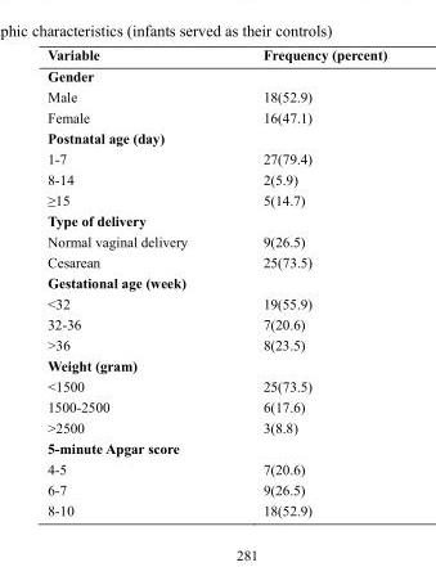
<table><thead><tr><td>Variable</td><td>Frequency (percent)</td></tr></thead><tbody><tr><td colspan="2">Gender</td></tr><tr><td>Male</td><td>18(52.9)</td></tr><tr><td>Female</td><td>16(47.1)</td></tr><tr><td colspan="2">Postnatal age (day)</td></tr><tr><td>1-7</td><td>27(79.4)</td></tr><tr><td>8-14</td><td>2(5.9)</td></tr><tr><td>≥15</td><td>5(14.7)</td></tr><tr><td colspan="2">Type of delivery</td></tr><tr><td>Normal vaginal delivery</td><td>9(26.5)</td></tr><tr><td>Cesarean</td><td>25(73.5)</td></tr><tr><td colspan="2">Gestational age (week)</td></tr><tr><td>&lt;32</td><td>19(55.9)</td></tr><tr><td>32-36</td><td>7(20.6)</td></tr><tr><td>&gt;36</td><td>8(23.5)</td></tr><tr><td colspan="2">Weight (gram)</td></tr><tr><td>&lt;1500</td><td>25(73.5)</td></tr><tr><td>1500-2500</td><td>6(17.6)</td></tr><tr><td>&gt;2500</td><td>3(8.8)</td></tr><tr><td colspan="2">5-minute Apgar score</td></tr><tr><td>4-5</td><td>7(20.6)</td></tr><tr><td>6-7</td><td>9(26.5)</td></tr><tr><td>8-10</td><td>18(52.9)</td></tr></tbody></table>